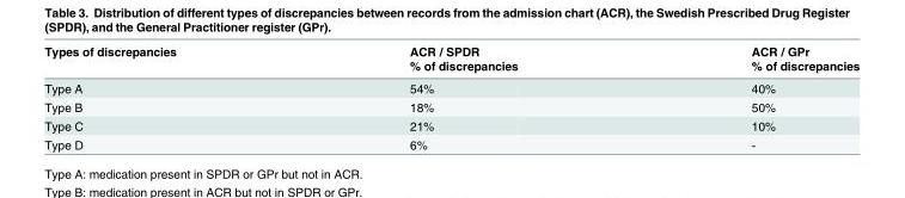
<table><thead><tr><td rowspan="2">Types of discrepancies</td><td rowspan="2">ACR / SPDR % of discrepancies</td><td rowspan="2">ACR / GPr % of discrepancies</td></tr><tr></tr></thead><tbody><tr><td>Type A</td><td>54%</td><td>40%</td></tr><tr><td>Type B</td><td>18%</td><td>50%</td></tr><tr><td>Type C</td><td>21%</td><td>10%</td></tr><tr><td>Type D</td><td>6%</td><td>-</td></tr></tbody></table>